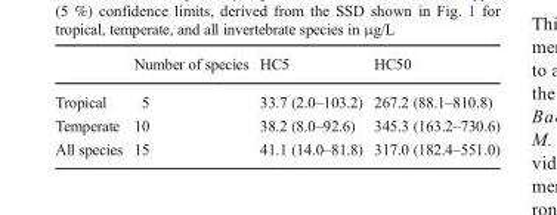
<table><thead><tr><td></td><td>Number of species</td><td>HC5</td><td>HC50</td></tr></thead><tbody><tr><td>Tropical</td><td>5</td><td>33.7 (2.0–103.2)</td><td>267.2 (88.1–810.8)</td></tr><tr><td>Temperate</td><td>10</td><td>38.2 (8.0–92.6)</td><td>345.3 (163.2–730.6)</td></tr><tr><td>All species</td><td>15</td><td>41.1 (14.0–81.8)</td><td>317.0 (182.4–551.0)</td></tr></tbody></table>